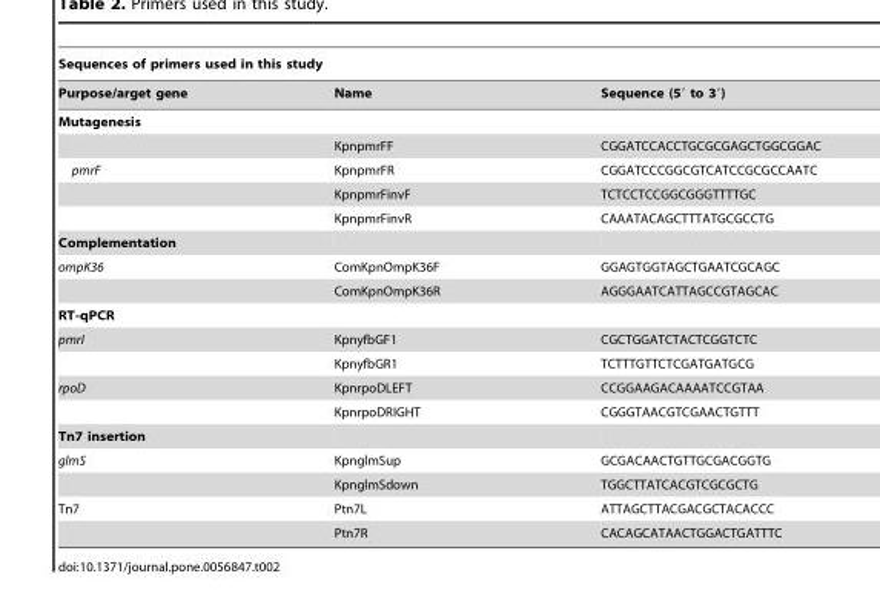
<table><thead><tr><td colspan="3">Sequences of primers used in this study</td></tr><tr><td>Purpose/arget gene</td><td>Name</td><td>Sequence (5′ to 3′)</td></tr></thead><tbody><tr><td colspan="3">Mutagenesis</td></tr><tr><td></td><td>KpnpmrFF</td><td>CGGATCCACCTGCGCGAGCTGGCGGAC</td></tr><tr><td rowspan="3">pmrF</td><td>KpnpmrFR</td><td>CGGATCCCGGCGTCATCCGCGCCAATC</td></tr><tr><td>KpnpmrFinvF</td><td>TCTCCTCCGGCGGGTTTTGC</td></tr><tr><td>KpnpmrFinvR</td><td>CAAATACAGCTTTATGCGCCTG</td></tr><tr><td colspan="3">Complementation</td></tr><tr><td rowspan="2">ompK36</td><td>ComKpnOmpK36F</td><td>GGAGTGGTAGCTGAATCGCAGC</td></tr><tr><td>ComKpnOmpK36R</td><td>AGGGAATCATTAGCCGTAGCAC</td></tr><tr><td colspan="3">RT-qPCR</td></tr><tr><td rowspan="2">pmrI</td><td>KpnyfbGF1</td><td>CGCTGGATCTACTCGGTCTC</td></tr><tr><td>KpnyfbGR1</td><td>TCTTTGTTCTCGATGATGCG</td></tr><tr><td rowspan="2">rpoD</td><td>KpnrpoDLEFT</td><td>CCGGAAGACAAAATCCGTAA</td></tr><tr><td>KpnrpoDRIGHT</td><td>CGGGTAACGTCGAACTGTTT</td></tr><tr><td colspan="3">Tn7 insertion</td></tr><tr><td rowspan="2">glmS</td><td>KpnglmSup</td><td>GCGACAACTGTTGCGACGGTG</td></tr><tr><td>KpnglmSdown</td><td>TGGCTTATCACGTCGCGCTG</td></tr><tr><td rowspan="2">Tn7</td><td>Ptn7L</td><td>ATTAGCTTACGACGCTACACCC</td></tr><tr><td>Ptn7R</td><td>CACAGCATAACTGGACTGATTTC</td></tr></tbody></table>